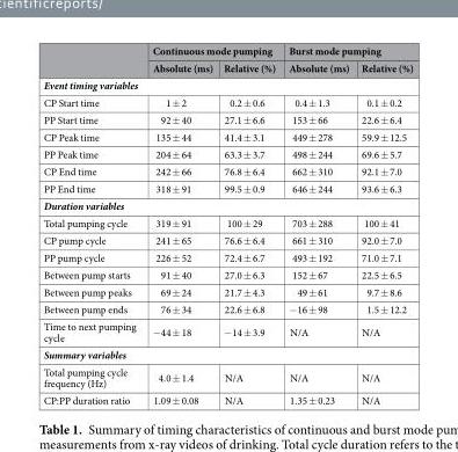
<table><thead><tr><td rowspan="2"></td><td colspan="2">Continuous mode pumping</td><td colspan="2">Burst mode pumping</td></tr><tr><td>Absolute (ms)</td><td>Relative (%)</td><td>Absolute (ms)</td><td>Relative (%)</td></tr></thead><tbody><tr><td colspan="5">Event timing variables</td></tr><tr><td>CP Start time</td><td>1 ± 2</td><td>0.2 ± 0.6</td><td>0.4 ± 1.3</td><td>0.1 ± 0.2</td></tr><tr><td>PP Start time</td><td>92 ± 40</td><td>27.1 ± 6.6</td><td>153 ± 66</td><td>22.6 ± 6.4</td></tr><tr><td>CP Peak time</td><td>135 ± 44</td><td>41.4 ± 3.1</td><td>449 ± 278</td><td>59.9 ± 12.5</td></tr><tr><td>PP Peak time</td><td>204 ± 64</td><td>63.3 ± 3.7</td><td>498 ± 244</td><td>69.6 ± 5.7</td></tr><tr><td>CP End time</td><td>242 ± 66</td><td>76.8 ± 6.4</td><td>662 ± 310</td><td>92.1 ± 7.0</td></tr><tr><td>PP End time</td><td>318 ± 91</td><td>99.5 ± 0.9</td><td>646 ± 244</td><td>93.6 ± 6.3</td></tr><tr><td colspan="5">Duration variables</td></tr><tr><td>Total pumping cycle</td><td>319 ± 91</td><td>100 ± 29</td><td>703 ± 288</td><td>100 ± 41</td></tr><tr><td>CP pump cycle</td><td>241 ± 65</td><td>76.6 ± 6.4</td><td>661 ± 310</td><td>92.0 ± 7.0</td></tr><tr><td>PP pump cycle</td><td>226 ± 52</td><td>72.4 ± 6.7</td><td>493 ± 192</td><td>71.0 ± 7.1</td></tr><tr><td>Between pump starts</td><td>91 ± 40</td><td>27.0 ± 6.3</td><td>152 ± 67</td><td>22.5 ± 6.5</td></tr><tr><td>Between pump peaks</td><td>69 ± 24</td><td>21.7 ± 4.3</td><td>49 ± 61</td><td>9.7 ± 8.6</td></tr><tr><td>Between pump ends</td><td>76 ± 34</td><td>22.6 ± 6.8</td><td>−16 ± 98</td><td>1.5 ± 12.2</td></tr><tr><td>Time to next pumping cycle</td><td>−44 ± 18</td><td>−14 ± 3.9</td><td>N/A</td><td>N/A</td></tr><tr><td colspan="5">Summary variables</td></tr><tr><td>Total pumping cycle frequency (Hz)</td><td>4.0 ± 1.4</td><td>N/A</td><td>N/A</td><td>N/A</td></tr><tr><td>CP:PP duration ratio</td><td>1.09 ± 0.08</td><td>N/A</td><td>1.35 ± 0.23</td><td>N/A</td></tr></tbody></table>